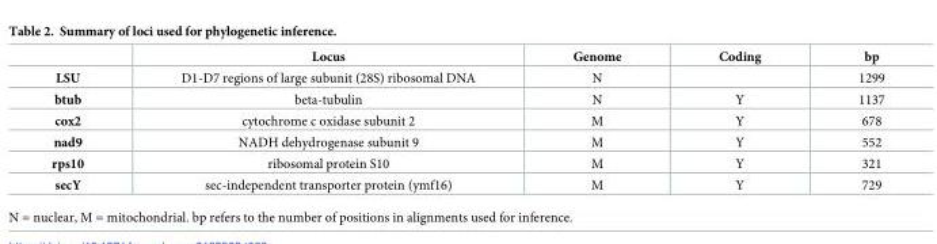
<table><thead><tr><td></td><td>Locus</td><td>Genome</td><td>Coding</td><td>bp</td></tr></thead><tbody><tr><td>LSU</td><td>D1-D7 regions of large subunit (28S) ribosomal DNA</td><td>N</td><td></td><td>1299</td></tr><tr><td>btub</td><td>beta-tubulin</td><td>N</td><td>Y</td><td>1137</td></tr><tr><td>cox2</td><td>cytochrome c oxidase subunit 2</td><td>M</td><td>Y</td><td>678</td></tr><tr><td>nad9</td><td>NADH dehydrogenase subunit 9</td><td>M</td><td>Y</td><td>552</td></tr><tr><td>rps10</td><td>ribosomal protein S10</td><td>M</td><td>Y</td><td>321</td></tr><tr><td>secY</td><td>sec-independent transporter protein (ymf16)</td><td>M</td><td>Y</td><td>729</td></tr></tbody></table>